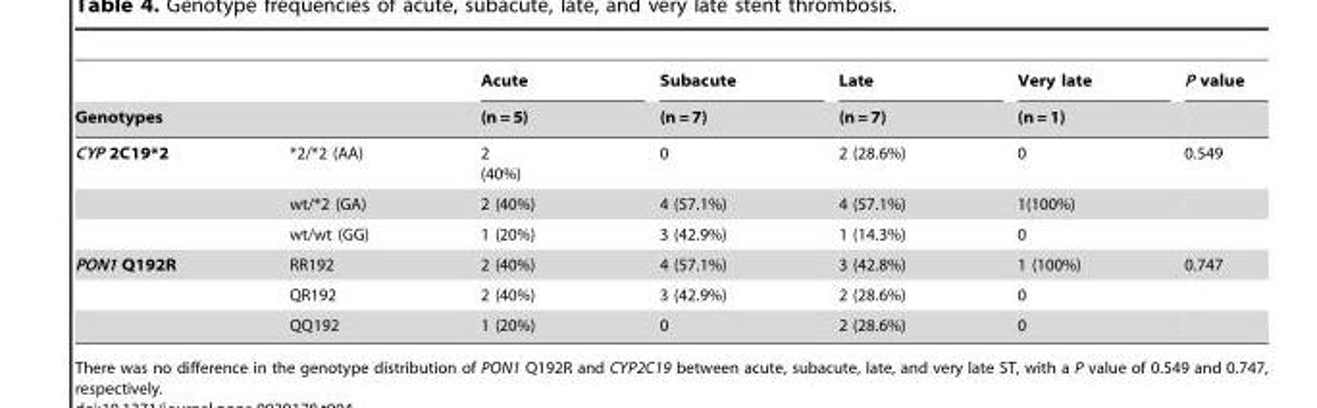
<table><thead><tr><td></td><td></td><td rowspan="2">Acute (n = 5)</td><td rowspan="2">Subacute (n = 7)</td><td rowspan="2">Late (n = 7)</td><td rowspan="2">Very late (n = 1)</td><td rowspan="2">P value</td></tr><tr><td colspan="2">Genotypes</td></tr></thead><tbody><tr><td rowspan="3">CYP 2C19*2</td><td>*2/*2 (AA)</td><td>2 (40%)</td><td>0</td><td>2 (28.6%)</td><td>0</td><td>0.549</td></tr><tr><td>wt/*2 (GA)</td><td>2 (40%)</td><td>4 (57.1%)</td><td>4 (57.1%)</td><td>1(100%)</td><td></td></tr><tr><td>wt/wt (GG)</td><td>1 (20%)</td><td>3 (42.9%)</td><td>1 (14.3%)</td><td>0</td><td></td></tr><tr><td rowspan="3">PON1 Q192R</td><td>RR192</td><td>2 (40%)</td><td>4 (57.1%)</td><td>3 (42.8%)</td><td>1 (100%)</td><td>0.747</td></tr><tr><td>QR192</td><td>2 (40%)</td><td>3 (42.9%)</td><td>2 (28.6%)</td><td>0</td><td></td></tr><tr><td>QQ192</td><td>1 (20%)</td><td>0</td><td>2 (28.6%)</td><td>0</td><td></td></tr></tbody></table>